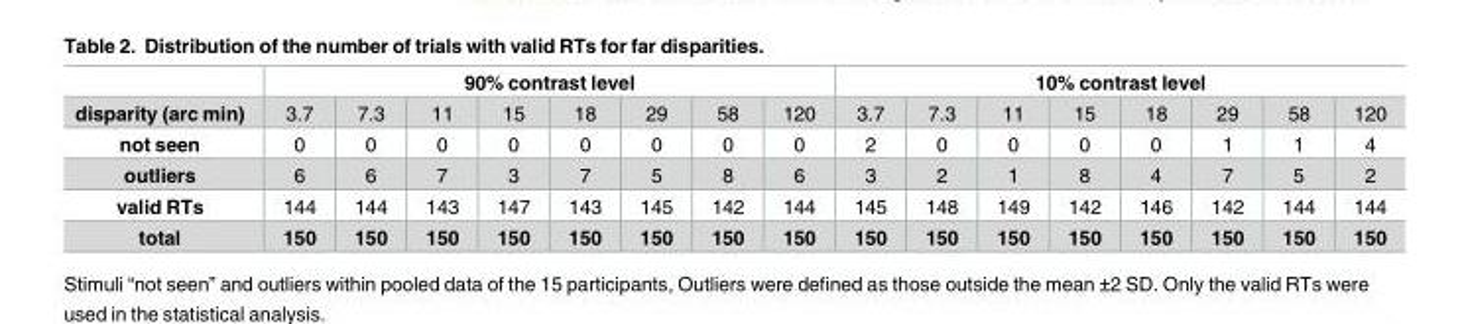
<table><thead><tr><td rowspan="2">disparity (arc min)</td><td colspan="8">90% contrast level</td><td colspan="8">10% contrast level</td></tr><tr><td>3.7</td><td>7.3</td><td>11</td><td>15</td><td>18</td><td>29</td><td>58</td><td>120</td><td>3.7</td><td>7.3</td><td>11</td><td>15</td><td>18</td><td>29</td><td>58</td><td>120</td></tr></thead><tbody><tr><td>not seen</td><td>0</td><td>0</td><td>0</td><td>0</td><td>0</td><td>0</td><td>0</td><td>0</td><td>2</td><td>0</td><td>0</td><td>0</td><td>0</td><td>1</td><td>1</td><td>4</td></tr><tr><td>outliers</td><td>6</td><td>6</td><td>7</td><td>3</td><td>7</td><td>5</td><td>8</td><td>6</td><td>3</td><td>2</td><td>1</td><td>8</td><td>4</td><td>7</td><td>5</td><td>2</td></tr><tr><td>valid RTs</td><td>144</td><td>144</td><td>143</td><td>147</td><td>143</td><td>145</td><td>142</td><td>144</td><td>145</td><td>148</td><td>149</td><td>142</td><td>146</td><td>142</td><td>144</td><td>144</td></tr><tr><td>total</td><td>150</td><td>150</td><td>150</td><td>150</td><td>150</td><td>150</td><td>150</td><td>150</td><td>150</td><td>150</td><td>150</td><td>150</td><td>150</td><td>150</td><td>150</td><td>150</td></tr></tbody></table>